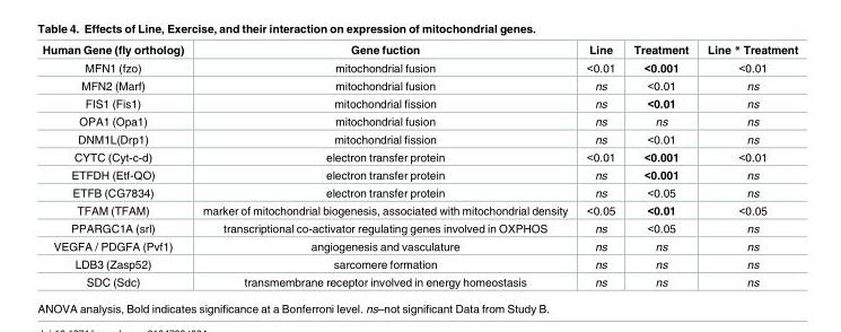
<table><thead><tr><td>Human Gene (fly ortholog)</td><td>Gene fuction</td><td>Line</td><td>Treatment</td><td>Line * Treatment</td></tr></thead><tbody><tr><td>MFN1 (fzo)</td><td>mitochondrial fusion</td><td>&lt;0.01</td><td>&lt;0.001</td><td>&lt;0.01</td></tr><tr><td>MFN2 (Marf)</td><td>mitochondrial fusion</td><td>ns</td><td>&lt;0.01</td><td>ns</td></tr><tr><td>FIS1 (Fis1)</td><td>mitochondrial fission</td><td>ns</td><td>&lt;0.01</td><td>ns</td></tr><tr><td>OPA1 (Opa1)</td><td>mitochondrial fusion</td><td>ns</td><td>ns</td><td>ns</td></tr><tr><td>DNM1L(Drp1)</td><td>mitochondrial fission</td><td>ns</td><td>&lt;0.01</td><td>ns</td></tr><tr><td>CYTC (Cyt-c-d)</td><td>electron transfer protein</td><td>&lt;0.01</td><td>&lt;0.001</td><td>&lt;0.01</td></tr><tr><td>ETFDH (Etf-QO)</td><td>electron transfer protein</td><td>ns</td><td>&lt;0.001</td><td>ns</td></tr><tr><td>ETFB (CG7834)</td><td>electron transfer protein</td><td>ns</td><td>&lt;0.05</td><td>ns</td></tr><tr><td>TFAM (TFAM)</td><td>marker of mitochondrial biogenesis, associated with mitochondrial density</td><td>&lt;0.05</td><td>&lt;0.01</td><td>&lt;0.05</td></tr><tr><td>PPARGC1A (srl)</td><td>transcriptional co-activator regulating genes involved in OXPHOS</td><td>ns</td><td>&lt;0.05</td><td>ns</td></tr><tr><td>VEGFA / PDGFA (Pvf1)</td><td>angiogenesis and vasculature</td><td>ns</td><td>ns</td><td>ns</td></tr><tr><td>LDB3 (Zasp52)</td><td>sarcomere formation</td><td>ns</td><td>ns</td><td>ns</td></tr><tr><td>SDC (Sdc)</td><td>transmembrane receptor involved in energy homeostasis</td><td>ns</td><td>ns</td><td>ns</td></tr></tbody></table>